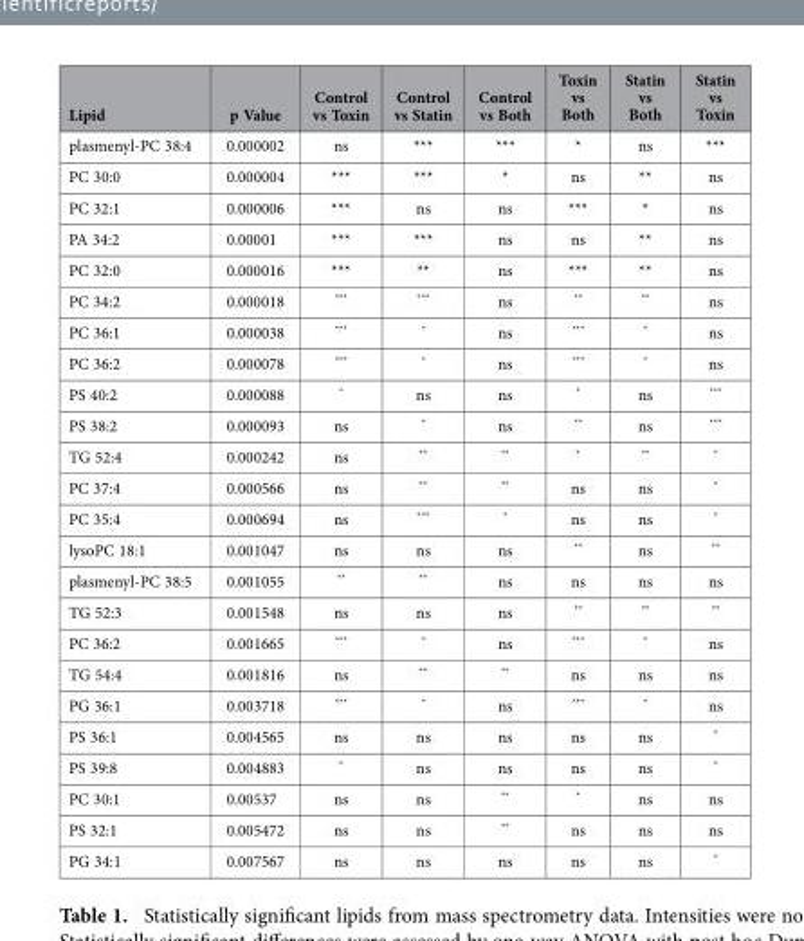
<table><thead><tr><td>Lipid</td><td>p Value</td><td>Control vs Toxin</td><td>Control vs Statin</td><td>Control vs Both</td><td>Toxin vs Both</td><td>Statin vs Both</td><td>Statin vs Toxin</td></tr></thead><tbody><tr><td>plasmenyl-PC 38:4</td><td>0.000002</td><td>ns</td><td>***</td><td>***</td><td>*</td><td>ns</td><td>***</td></tr><tr><td>PC 30:0</td><td>0.000004</td><td>***</td><td>***</td><td>*</td><td>ns</td><td>**</td><td>ns</td></tr><tr><td>PC 32:1</td><td>0.000006</td><td>***</td><td>ns</td><td>ns</td><td>***</td><td>*</td><td>ns</td></tr><tr><td>PA 34:2</td><td>0.00001</td><td>***</td><td>***</td><td>ns</td><td>ns</td><td>**</td><td>ns</td></tr><tr><td>PC 32:0</td><td>0.000016</td><td>***</td><td>**</td><td>ns</td><td>***</td><td>**</td><td>ns</td></tr><tr><td>PC 34:2</td><td>0.000018</td><td>***</td><td>***</td><td>ns</td><td>**</td><td>**</td><td>ns</td></tr><tr><td>PC 36:1</td><td>0.000038</td><td>***</td><td>*</td><td>ns</td><td>***</td><td>*</td><td>ns</td></tr><tr><td>PC 36:2</td><td>0.000078</td><td>***</td><td>*</td><td>ns</td><td>***</td><td>*</td><td>ns</td></tr><tr><td>PS 40:2</td><td>0.000088</td><td>*</td><td>ns</td><td>ns</td><td>*</td><td>ns</td><td>***</td></tr><tr><td>PS 38:2</td><td>0.000093</td><td>ns</td><td>*</td><td>ns</td><td>**</td><td>ns</td><td>***</td></tr><tr><td>TG 52:4</td><td>0.000242</td><td>ns</td><td>**</td><td>**</td><td>*</td><td>**</td><td>*</td></tr><tr><td>PC 37:4</td><td>0.000566</td><td>ns</td><td>**</td><td>**</td><td>ns</td><td>ns</td><td>*</td></tr><tr><td>PC 35:4</td><td>0.000694</td><td>ns</td><td>***</td><td>*</td><td>ns</td><td>ns</td><td>*</td></tr><tr><td>lysoPC 18:1</td><td>0.001047</td><td>ns</td><td>ns</td><td>ns</td><td>**</td><td>ns</td><td>**</td></tr><tr><td>plasmenyl-PC 38:5</td><td>0.001055</td><td>**</td><td>**</td><td>ns</td><td>ns</td><td>ns</td><td>ns</td></tr><tr><td>TG 52:3</td><td>0.001548</td><td>ns</td><td>ns</td><td>ns</td><td>**</td><td>**</td><td>**</td></tr><tr><td>PC 36:2</td><td>0.001665</td><td>***</td><td>*</td><td>ns</td><td>***</td><td>*</td><td>ns</td></tr><tr><td>TG 54:4</td><td>0.001816</td><td>ns</td><td>**</td><td>**</td><td>ns</td><td>ns</td><td>ns</td></tr><tr><td>PG 36:1</td><td>0.003718</td><td>***</td><td>*</td><td>ns</td><td>***</td><td>*</td><td>ns</td></tr><tr><td>PS 36:1</td><td>0.004565</td><td>ns</td><td>ns</td><td>ns</td><td>ns</td><td>ns</td><td>*</td></tr><tr><td>PS 39:8</td><td>0.004883</td><td>*</td><td>ns</td><td>ns</td><td>ns</td><td>ns</td><td>*</td></tr><tr><td>PC 30:1</td><td>0.00537</td><td>ns</td><td>ns</td><td>**</td><td>*</td><td>ns</td><td>ns</td></tr><tr><td>PS 32:1</td><td>0.005472</td><td>ns</td><td>ns</td><td>**</td><td>ns</td><td>ns</td><td>ns</td></tr><tr><td>PG 34:1</td><td>0.007567</td><td>ns</td><td>ns</td><td>ns</td><td>ns</td><td>ns</td><td>*</td></tr></tbody></table>